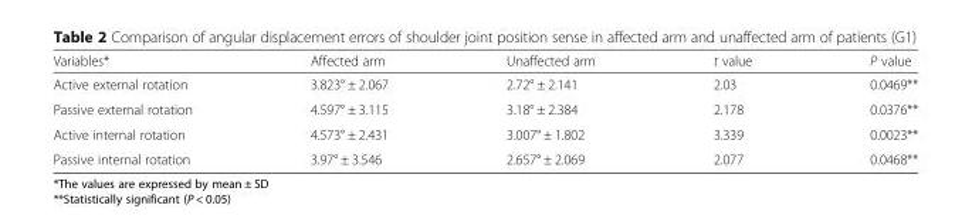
<table><thead><tr><td>Variables*</td><td>Affected arm</td><td>Unaffected arm</td><td>t value</td><td>P value</td></tr></thead><tbody><tr><td>Active external rotation</td><td>3.823° ± 2.067</td><td>2.72° ± 2.141</td><td>2.03</td><td>0.0469**</td></tr><tr><td>Passive external rotation</td><td>4.597° ± 3.115</td><td>3.18° ± 2.384</td><td>2.178</td><td>0.0376**</td></tr><tr><td>Active internal rotation</td><td>4.573° ± 2.431</td><td>3.007° ± 1.802</td><td>3.339</td><td>0.0023**</td></tr><tr><td>Passive internal rotation</td><td>3.97° ± 3.546</td><td>2.657° ± 2.069</td><td>2.077</td><td>0.0468**</td></tr></tbody></table>